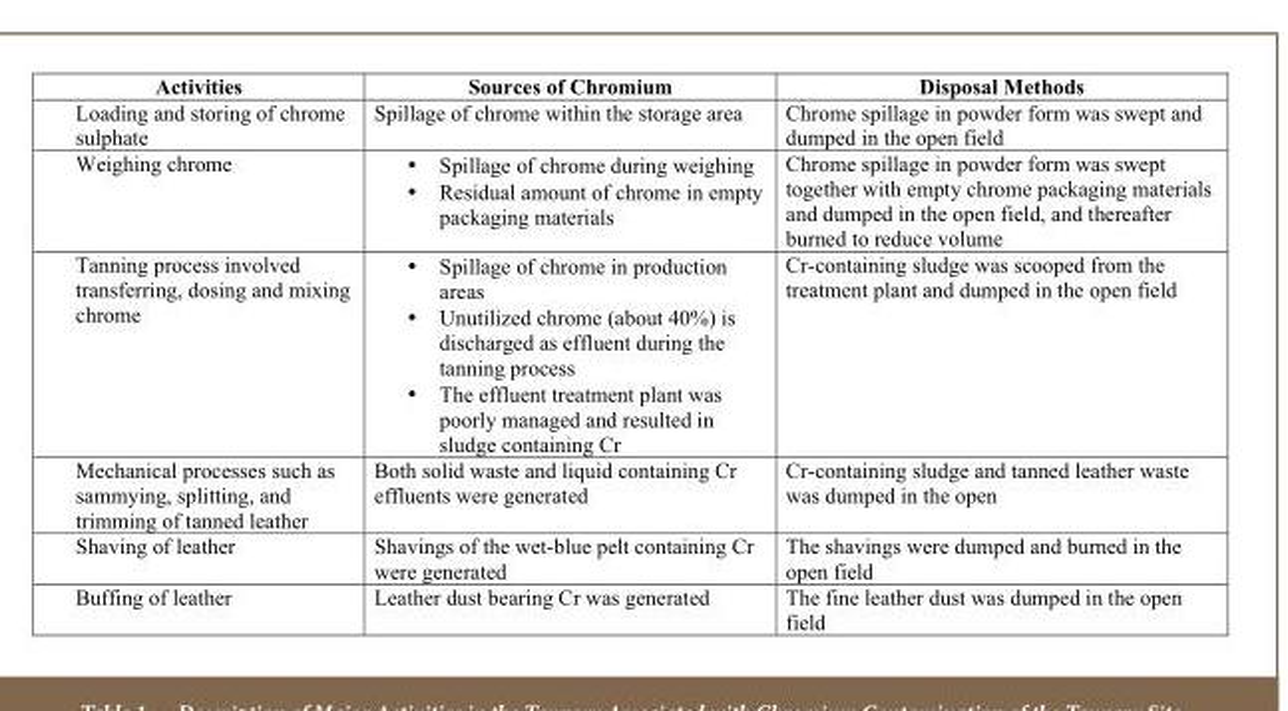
<table><thead><tr><td>Activities</td><td>Sources of Chromium</td><td>Disposal Methods</td></tr></thead><tbody><tr><td>Loading and storing of chrome sulphate</td><td>Spillage of chrome within the storage area</td><td>Chrome spillage in powder form was swept and dumped in the open field</td></tr><tr><td>Weighing chrome</td><td>• Spillage of chrome during weighing • Residual amount of chrome in empty packaging materials</td><td>Chrome spillage in powder form was swept together with empty chrome packaging materials and dumped in the open field, and thereafter burned to reduce volume</td></tr><tr><td>Tanning process involved transferring, dosing and mixing chrome</td><td>• Spillage of chrome in production areas • Unutilized chrome (about 40%) is discharged as effluent during the tanning process • The effluent treatment plant was poorly managed and resulted in sludge containing Cr</td><td>Cr-containing sludge was scooped from the treatment plant and dumped in the open field</td></tr><tr><td>Mechanical processes such as sammying, splitting, and trimming of tanned leather</td><td>Both solid waste and liquid containing Cr effluents were generated</td><td>Cr-containing sludge and tanned leather waste was dumped in the open</td></tr><tr><td>Shaving of leather</td><td>Shavings of the wet-blue pelt containing Cr were generated</td><td>The shavings were dumped and burned in the open field</td></tr><tr><td>Buffing of leather</td><td>Leather dust bearing Cr was generated</td><td>The fine leather dust was dumped in the open field</td></tr></tbody></table>